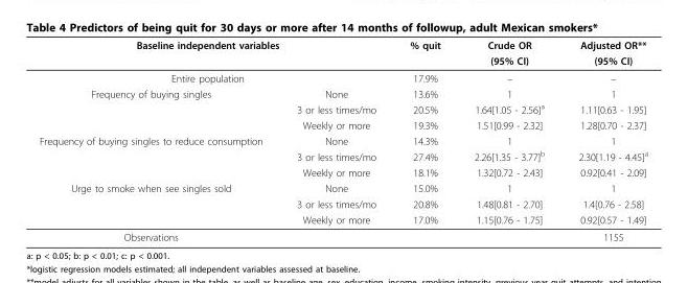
<table><thead><tr><td colspan="2">Baseline independent variables</td><td rowspan="2">% quit</td><td rowspan="2">Crude OR (95% CI)</td><td rowspan="2">Adjusted OR** (95% CI)</td></tr><tr><td></td><td></td></tr></thead><tbody><tr><td colspan="2">Entire population</td><td>17.9%</td><td>–</td><td>–</td></tr><tr><td rowspan="3">Frequency of buying singles</td><td>None</td><td>13.6%</td><td>1</td><td>1</td></tr><tr><td>3 or less times/mo</td><td>20.5%</td><td>1.64[1.05 - 2.56]<sup>a</sup></td><td>1.11[0.63 - 1.95]</td></tr><tr><td>Weekly or more</td><td>19.3%</td><td>1.51[0.99 - 2.32]</td><td>1.28[0.70 - 2.37]</td></tr><tr><td rowspan="3">Frequency of buying singles to reduce consumption</td><td>None</td><td>14.3%</td><td>1</td><td>1</td></tr><tr><td>3 or less times/mo</td><td>27.4%</td><td>2.26[1.35 - 3.77]<sup>b</sup></td><td>2.30[1.19 - 4.45]<sup>a</sup></td></tr><tr><td>Weekly or more</td><td>18.1%</td><td>1.32[0.72 - 2.43]</td><td>0.92[0.41 - 2.09]</td></tr><tr><td rowspan="3">Urge to smoke when see singles sold</td><td>None</td><td>15.0%</td><td>1</td><td>1</td></tr><tr><td>3 or less times/mo</td><td>20.8%</td><td>1.48[0.81 - 2.70]</td><td>1.4[0.76 - 2.58]</td></tr><tr><td>Weekly or more</td><td>17.0%</td><td>1.15[0.76 - 1.75]</td><td>0.92[0.57 - 1.49]</td></tr><tr><td>Observations</td><td></td><td></td><td></td><td>1155</td></tr></tbody></table>